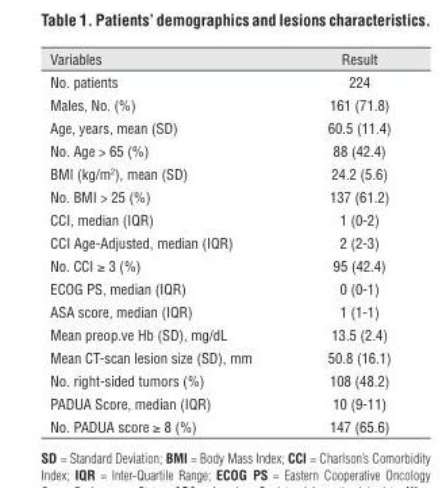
<table><thead><tr><td>Variables</td><td>Result</td></tr></thead><tbody><tr><td>No. patients</td><td>224</td></tr><tr><td>Males, No. (%)</td><td>161 (71.8)</td></tr><tr><td>Age, years, mean (SD)</td><td>60.5 (11.4)</td></tr><tr><td>No. Age &gt; 65 (%)</td><td>88 (42.4)</td></tr><tr><td>BMI (kg/m<sup>2</sup>), mean (SD)</td><td>24.2 (5.6)</td></tr><tr><td>No. BMI &gt; 25 (%)</td><td>137 (61.2)</td></tr><tr><td>CCI, median (IQR)</td><td>1 (0-2)</td></tr><tr><td>CCI Age-Adjusted, median (IQR)</td><td>2 (2-3)</td></tr><tr><td>No. CCI ≥ 3 (%)</td><td>95 (42.4)</td></tr><tr><td>ECOG PS, median (IQR)</td><td>0 (0-1)</td></tr><tr><td>ASA score, median (IQR)</td><td>1 (1-1)</td></tr><tr><td>Mean preop.ve Hb (SD), mg/dL</td><td>13.5 (2.4)</td></tr><tr><td>Mean CT-scan lesion size (SD), mm</td><td>50.8 (16.1)</td></tr><tr><td>No. right-sided tumors (%)</td><td>108 (48.2)</td></tr><tr><td>PADUA Score, median (IQR)</td><td>10 (9-11)</td></tr><tr><td>No. PADUA score ≥ 8 (%)</td><td>147 (65.6)</td></tr></tbody></table>